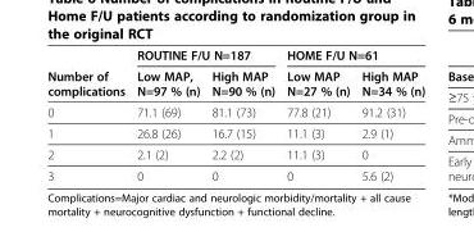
<table><thead><tr><td rowspan="2">Number of complications</td><td colspan="2">ROUTINE F/U N=187</td><td colspan="2">HOME F/U N=61</td></tr><tr><td>Low MAP, N=97 % (n)</td><td>High MAP N=90 % (n)</td><td>Low MAP N=27 % (n)</td><td>High MAP N=34 % (n)</td></tr></thead><tbody><tr><td>0</td><td>71.1 (69)</td><td>81.1 (73)</td><td>77.8 (21)</td><td>91.2 (31)</td></tr><tr><td>1</td><td>26.8 (26)</td><td>16.7 (15)</td><td>11.1 (3)</td><td>2.9 (1)</td></tr><tr><td>2</td><td>2.1 (2)</td><td>2.2 (2)</td><td>11.1 (3)</td><td>0</td></tr><tr><td>3</td><td>0</td><td>0</td><td>0</td><td>5.6 (2)</td></tr></tbody></table>